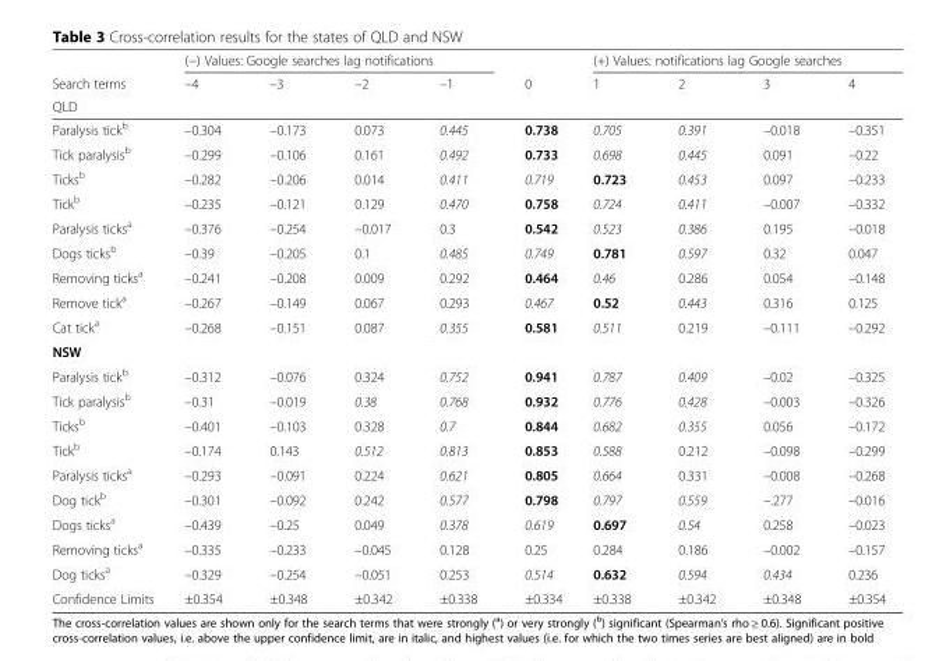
<table><thead><tr><td rowspan="3">Search terms QLD</td><td colspan="4">(−) Values: Google searches lag notifications</td><td rowspan="3">0</td><td colspan="4">(+) Values: notifications lag Google searches</td></tr><tr><td rowspan="2">–4</td><td rowspan="2">–3</td><td rowspan="2">–2</td><td rowspan="2">–1</td><td rowspan="2">1</td><td rowspan="2">2</td><td rowspan="2">3</td><td rowspan="2">4</td></tr><tr></tr></thead><tbody><tr><td>Paralysis tick<sup>b</sup></td><td>–0.304</td><td>–0.173</td><td>0.073</td><td>0.445</td><td>0.738</td><td>0.705</td><td>0.391</td><td>–0.018</td><td>–0.351</td></tr><tr><td>Tick paralysis<sup>b</sup></td><td>–0.299</td><td>–0.106</td><td>0.161</td><td>0.492</td><td>0.733</td><td>0.698</td><td>0.445</td><td>0.091</td><td>–0.22</td></tr><tr><td>Ticks<sup>b</sup></td><td>–0.282</td><td>–0.206</td><td>0.014</td><td>0.411</td><td>0.719</td><td>0.723</td><td>0.453</td><td>0.097</td><td>–0.233</td></tr><tr><td>Tick<sup>b</sup></td><td>–0.235</td><td>–0.121</td><td>0.129</td><td>0.470</td><td>0.758</td><td>0.724</td><td>0.411</td><td>–0.007</td><td>–0.332</td></tr><tr><td>Paralysis ticks<sup>a</sup></td><td>–0.376</td><td>–0.254</td><td>–0.017</td><td>0.3</td><td>0.542</td><td>0.523</td><td>0.386</td><td>0.195</td><td>–0.018</td></tr><tr><td>Dogs ticks<sup>b</sup></td><td>–0.39</td><td>–0.205</td><td>0.1</td><td>0.485</td><td>0.749</td><td>0.781</td><td>0.597</td><td>0.32</td><td>0.047</td></tr><tr><td>Removing ticks<sup>a</sup></td><td>–0.241</td><td>–0.208</td><td>0.009</td><td>0.292</td><td>0.464</td><td>0.46</td><td>0.286</td><td>0.054</td><td>–0.148</td></tr><tr><td>Remove tick<sup>a</sup></td><td>–0.267</td><td>–0.149</td><td>0.067</td><td>0.293</td><td>0.467</td><td>0.52</td><td>0.443</td><td>0.316</td><td>0.125</td></tr><tr><td>Cat tick<sup>a</sup></td><td>–0.268</td><td>–0.151</td><td>0.087</td><td>0.355</td><td>0.581</td><td>0.511</td><td>0.219</td><td>–0.111</td><td>–0.292</td></tr><tr><td colspan="10">NSW</td></tr><tr><td>Paralysis tick<sup>b</sup></td><td>–0.312</td><td>–0.076</td><td>0.324</td><td>0.752</td><td>0.941</td><td>0.787</td><td>0.409</td><td>–0.02</td><td>–0.325</td></tr><tr><td>Tick paralysis<sup>b</sup></td><td>–0.31</td><td>–0.019</td><td>0.38</td><td>0.768</td><td>0.932</td><td>0.776</td><td>0.428</td><td>–0.003</td><td>–0.326</td></tr><tr><td>Ticks<sup>b</sup></td><td>–0.401</td><td>–0.103</td><td>0.328</td><td>0.7</td><td>0.844</td><td>0.682</td><td>0.355</td><td>0.056</td><td>–0.172</td></tr><tr><td>Tick<sup>b</sup></td><td>–0.174</td><td>0.143</td><td>0.512</td><td>0.813</td><td>0.853</td><td>0.588</td><td>0.212</td><td>–0.098</td><td>–0.299</td></tr><tr><td>Paralysis ticks<sup>a</sup></td><td>–0.293</td><td>–0.091</td><td>0.224</td><td>0.621</td><td>0.805</td><td>0.664</td><td>0.331</td><td>–0.008</td><td>–0.268</td></tr><tr><td>Dog tick<sup>b</sup></td><td>–0.301</td><td>–0.092</td><td>0.242</td><td>0.577</td><td>0.798</td><td>0.797</td><td>0.559</td><td>–.277</td><td>–0.016</td></tr><tr><td>Dogs ticks<sup>a</sup></td><td>–0.439</td><td>–0.25</td><td>0.049</td><td>0.378</td><td>0.619</td><td>0.697</td><td>0.54</td><td>0.258</td><td>–0.023</td></tr><tr><td>Removing ticks<sup>a</sup></td><td>–0.335</td><td>–0.233</td><td>–0.045</td><td>0.128</td><td>0.25</td><td>0.284</td><td>0.186</td><td>–0.002</td><td>–0.157</td></tr><tr><td>Dog ticks<sup>a</sup></td><td>–0.329</td><td>–0.254</td><td>–0.051</td><td>0.253</td><td>0.514</td><td>0.632</td><td>0.594</td><td>0.434</td><td>0.236</td></tr><tr><td>Confidence Limits</td><td>±0.354</td><td>±0.348</td><td>±0.342</td><td>±0.338</td><td>±0.334</td><td>±0.338</td><td>±0.342</td><td>±0.348</td><td>±0.354</td></tr></tbody></table>